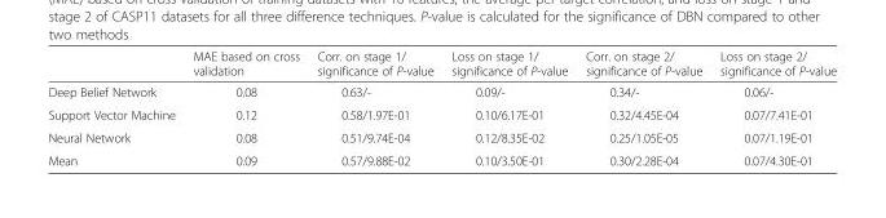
<table><thead><tr><td></td><td>MAE based on cross validation</td><td>Corr. on stage 1/ significance of P-value</td><td>Loss on stage 1/ significance of P-value</td><td>Corr. on stage 2/ significance of P-value</td><td>Loss on stage 2/ significance of P-value</td></tr></thead><tbody><tr><td>Deep Belief Network</td><td>0.08</td><td>0.63/-</td><td>0.09/-</td><td>0.34/-</td><td>0.06/-</td></tr><tr><td>Support Vector Machine</td><td>0.12</td><td>0.58/1.97E-01</td><td>0.10/6.17E-01</td><td>0.32/4.45E-04</td><td>0.07/7.41E-01</td></tr><tr><td>Neural Network</td><td>0.08</td><td>0.51/9.74E-04</td><td>0.12/8.35E-02</td><td>0.25/1.05E-05</td><td>0.07/1.19E-01</td></tr><tr><td>Mean</td><td>0.09</td><td>0.57/9.88E-02</td><td>0.10/3.50E-01</td><td>0.30/2.28E-04</td><td>0.07/4.30E-01</td></tr></tbody></table>